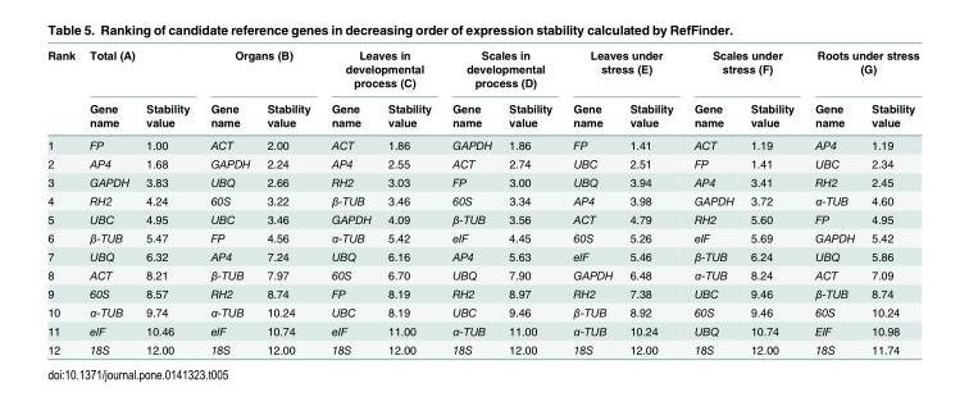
<table><thead><tr><td rowspan="2">Rank</td><td colspan="2">Total (A)</td><td colspan="2">Organs (B)</td><td colspan="2">Leaves in developmental process (C)</td><td colspan="2">Scales in developmental process (D)</td><td colspan="2">Leaves under stress (E)</td><td colspan="2">Scales under stress (F)</td><td colspan="2">Roots under stress (G)</td></tr><tr><td>Gene name</td><td>Stability value</td><td>Gene name</td><td>Stability value</td><td>Gene name</td><td>Stability value</td><td>Gene name</td><td>Stability value</td><td>Gene name</td><td>Stability value</td><td>Gene name</td><td>Stability value</td><td>Gene name</td><td>Stability value</td></tr></thead><tbody><tr><td>1</td><td>FP</td><td>1.00</td><td>ACT</td><td>2.00</td><td>ACT</td><td>1.86</td><td>GAPDH</td><td>1.86</td><td>FP</td><td>1.41</td><td>ACT</td><td>1.19</td><td>AP4</td><td>1.19</td></tr><tr><td>2</td><td>AP4</td><td>1.68</td><td>GAPDH</td><td>2.24</td><td>AP4</td><td>2.55</td><td>ACT</td><td>2.74</td><td>UBC</td><td>2.51</td><td>FP</td><td>1.41</td><td>UBC</td><td>2.34</td></tr><tr><td>3</td><td>GAPDH</td><td>3.83</td><td>UBQ</td><td>2.66</td><td>RH2</td><td>3.03</td><td>FP</td><td>3.00</td><td>UBQ</td><td>3.94</td><td>AP4</td><td>3.41</td><td>RH2</td><td>2.45</td></tr><tr><td>4</td><td>RH2</td><td>4.24</td><td>60S</td><td>3.22</td><td>β-TUB</td><td>3.46</td><td>60S</td><td>3.34</td><td>AP4</td><td>3.98</td><td>GAPDH</td><td>3.72</td><td>α-TUB</td><td>4.60</td></tr><tr><td>5</td><td>UBC</td><td>4.95</td><td>UBC</td><td>3.46</td><td>GAPDH</td><td>4.09</td><td>β-TUB</td><td>3.56</td><td>ACT</td><td>4.79</td><td>RH2</td><td>5.60</td><td>FP</td><td>4.95</td></tr><tr><td>6</td><td>β-TUB</td><td>5.47</td><td>FP</td><td>4.56</td><td>α-TUB</td><td>5.42</td><td>eIF</td><td>4.45</td><td>60S</td><td>5.26</td><td>eIF</td><td>5.69</td><td>GAPDH</td><td>5.42</td></tr><tr><td>7</td><td>UBQ</td><td>6.32</td><td>AP4</td><td>7.24</td><td>UBQ</td><td>6.16</td><td>AP4</td><td>5.63</td><td>eIF</td><td>5.46</td><td>β-TUB</td><td>6.24</td><td>UBQ</td><td>5.86</td></tr><tr><td>8</td><td>ACT</td><td>8.21</td><td>β-TUB</td><td>7.97</td><td>60S</td><td>6.70</td><td>UBQ</td><td>7.90</td><td>GAPDH</td><td>6.48</td><td>α-TUB</td><td>8.24</td><td>ACT</td><td>7.09</td></tr><tr><td>9</td><td>60S</td><td>8.57</td><td>RH2</td><td>8.74</td><td>FP</td><td>8.19</td><td>RH2</td><td>8.97</td><td>RH2</td><td>7.38</td><td>UBC</td><td>9.46</td><td>β-TUB</td><td>8.74</td></tr><tr><td>10</td><td>α-TUB</td><td>9.74</td><td>α-TUB</td><td>10.24</td><td>UBC</td><td>8.19</td><td>UBC</td><td>9.46</td><td>β-TUB</td><td>8.92</td><td>60S</td><td>9.46</td><td>60S</td><td>10.24</td></tr><tr><td>11</td><td>eIF</td><td>10.46</td><td>eIF</td><td>10.74</td><td>eIF</td><td>11.00</td><td>α-TUB</td><td>11.00</td><td>α-TUB</td><td>10.24</td><td>UBQ</td><td>10.74</td><td>EIF</td><td>10.98</td></tr><tr><td>12</td><td>18S</td><td>12.00</td><td>18S</td><td>12.00</td><td>18S</td><td>12.00</td><td>18S</td><td>12.00</td><td>18S</td><td>12.00</td><td>18S</td><td>12.00</td><td>18S</td><td>11.74</td></tr></tbody></table>